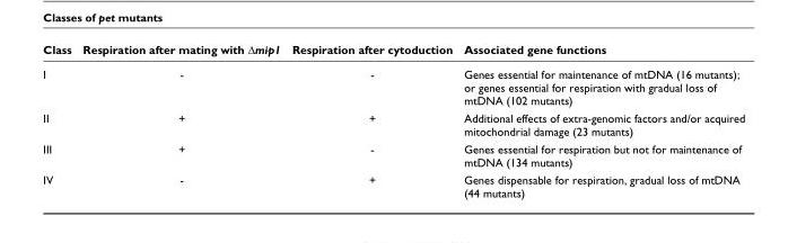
<table><thead><tr><td>Class</td><td>Respiration after mating with Δmip1</td><td>Respiration after cytoduction</td><td>Associated gene functions</td></tr></thead><tbody><tr><td>I</td><td>-</td><td>-</td><td>Genes essential for maintenance of mtDNA (16 mutants); or genes essential for respiration with gradual loss of mtDNA (102 mutants)</td></tr><tr><td>II</td><td>+</td><td>+</td><td>Additional effects of extra-genomic factors and/or acquired mitochondrial damage (23 mutants)</td></tr><tr><td>III</td><td>+</td><td>-</td><td>Genes essential for respiration but not for maintenance of mtDNA (134 mutants)</td></tr><tr><td>IV</td><td>-</td><td>+</td><td>Genes dispensable for respiration, gradual loss of mtDNA (44 mutants)</td></tr></tbody></table>